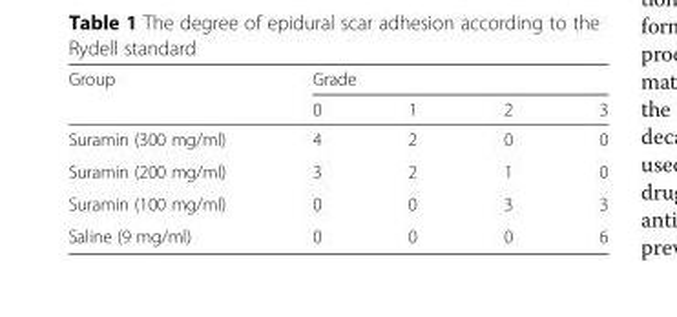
<table><thead><tr><td rowspan="2">Group</td><td colspan="4">Grade</td></tr><tr><td>0</td><td>1</td><td>2</td><td>3</td></tr></thead><tbody><tr><td>Suramin (300 mg/ml)</td><td>4</td><td>2</td><td>0</td><td>0</td></tr><tr><td>Suramin (200 mg/ml)</td><td>3</td><td>2</td><td>1</td><td>0</td></tr><tr><td>Suramin (100 mg/ml)</td><td>0</td><td>0</td><td>3</td><td>3</td></tr><tr><td>Saline (9 mg/ml)</td><td>0</td><td>0</td><td>0</td><td>6</td></tr></tbody></table>